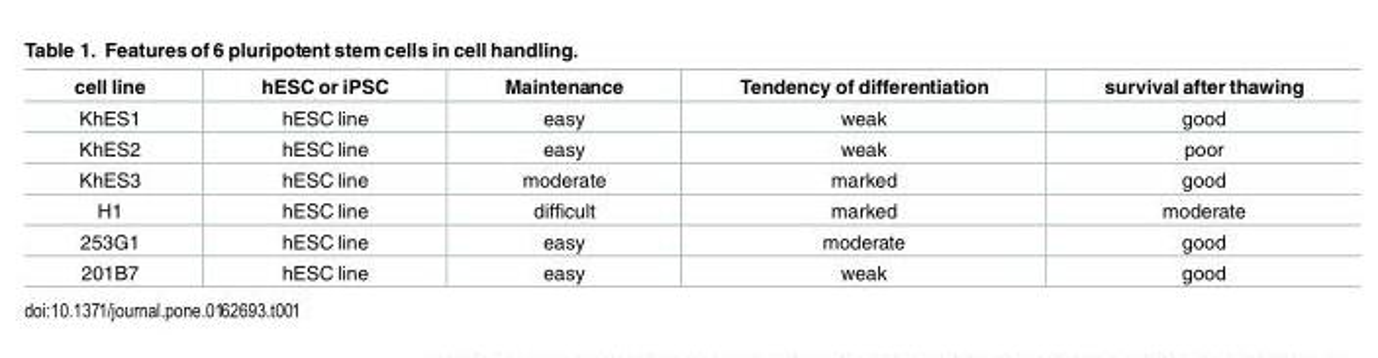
<table><thead><tr><td>cell line</td><td>hESC or iPSC</td><td>Maintenance</td><td>Tendency of differentiation</td><td>survival after thawing</td></tr></thead><tbody><tr><td>KhES1</td><td>hESC line</td><td>easy</td><td>weak</td><td>good</td></tr><tr><td>KhES2</td><td>hESC line</td><td>easy</td><td>weak</td><td>poor</td></tr><tr><td>KhES3</td><td>hESC line</td><td>moderate</td><td>marked</td><td>good</td></tr><tr><td>H1</td><td>hESC line</td><td>difficult</td><td>marked</td><td>moderate</td></tr><tr><td>253G1</td><td>hESC line</td><td>easy</td><td>moderate</td><td>good</td></tr><tr><td>201B7</td><td>hESC line</td><td>easy</td><td>weak</td><td>good</td></tr></tbody></table>